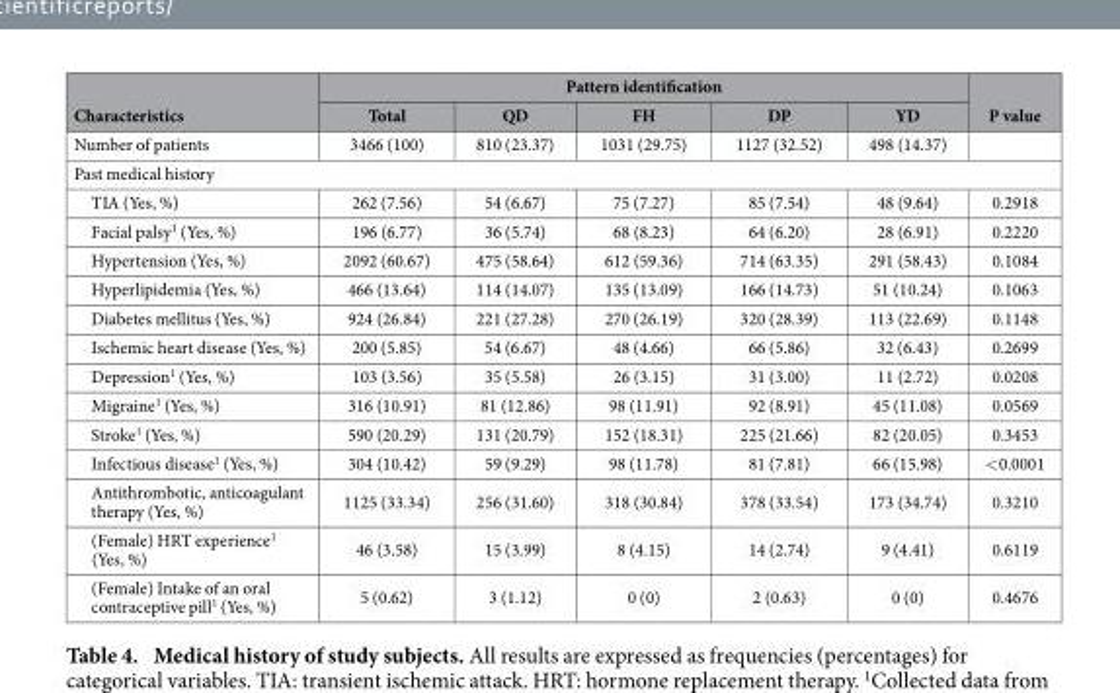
<table><thead><tr><td rowspan="2">Characteristics</td><td colspan="5">Pattern identification</td><td rowspan="2">P value</td></tr><tr><td>Total</td><td>QD</td><td>FH</td><td>DP</td><td>YD</td></tr></thead><tbody><tr><td>Number of patients</td><td>3466 (100)</td><td>810 (23.37)</td><td>1031 (29.75)</td><td>1127 (32.52)</td><td>498 (14.37)</td><td></td></tr><tr><td colspan="7">Past medical history</td></tr><tr><td>TIA (Yes, %)</td><td>262 (7.56)</td><td>54 (6.67)</td><td>75 (7.27)</td><td>85 (7.54)</td><td>48 (9.64)</td><td>0.2918</td></tr><tr><td>Facial palsy<sup>1</sup> (Yes, %)</td><td>196 (6.77)</td><td>36 (5.74)</td><td>68 (8.23)</td><td>64 (6.20)</td><td>28 (6.91)</td><td>0.2220</td></tr><tr><td>Hypertension (Yes, %)</td><td>2092 (60.67)</td><td>475 (58.64)</td><td>612 (59.36)</td><td>714 (63.35)</td><td>291 (58.43)</td><td>0.1084</td></tr><tr><td>Hyperlipidemia (Yes, %)</td><td>466 (13.64)</td><td>114 (14.07)</td><td>135 (13.09)</td><td>166 (14.73)</td><td>51 (10.24)</td><td>0.1063</td></tr><tr><td>Diabetes mellitus (Yes, %)</td><td>924 (26.84)</td><td>221 (27.28)</td><td>270 (26.19)</td><td>320 (28.39)</td><td>113 (22.69)</td><td>0.1148</td></tr><tr><td>Ischemic heart disease (Yes, %)</td><td>200 (5.85)</td><td>54 (6.67)</td><td>48 (4.66)</td><td>66 (5.86)</td><td>32 (6.43)</td><td>0.2699</td></tr><tr><td>Depression<sup>1</sup> (Yes, %)</td><td>103 (3.56)</td><td>35 (5.58)</td><td>26 (3.15)</td><td>31 (3.00)</td><td>11 (2.72)</td><td>0.0208</td></tr><tr><td>Migraine<sup>1</sup> (Yes, %)</td><td>316 (10.91)</td><td>81 (12.86)</td><td>98 (11.91)</td><td>92 (8.91)</td><td>45 (11.08)</td><td>0.0569</td></tr><tr><td>Stroke<sup>1</sup> (Yes, %)</td><td>590 (20.29)</td><td>131 (20.79)</td><td>152 (18.31)</td><td>225 (21.66)</td><td>82 (20.05)</td><td>0.3453</td></tr><tr><td>Infectious disease<sup>1</sup> (Yes, %)</td><td>304 (10.42)</td><td>59 (9.29)</td><td>98 (11.78)</td><td>81 (7.81)</td><td>66 (15.98)</td><td>&lt; 0.0001</td></tr><tr><td>Antithrombotic, anticoagulant therapy (Yes, %)</td><td>1125 (33.34)</td><td>256 (31.60)</td><td>318 (30.84)</td><td>378 (33.54)</td><td>173 (34.74)</td><td>0.3210</td></tr><tr><td>(Female) HRT experience<sup>1</sup> (Yes, %)</td><td>46 (3.58)</td><td>15 (3.99)</td><td>8 (4.15)</td><td>14 (2.74)</td><td>9 (4.41)</td><td>0.6119</td></tr><tr><td>(Female) Intake of an oral contraceptive pill<sup>1</sup> (Yes, %)</td><td>5 (0.62)</td><td>3 (1.12)</td><td>0 (0)</td><td>2 (0.63)</td><td>0 (0)</td><td>0.4676</td></tr></tbody></table>